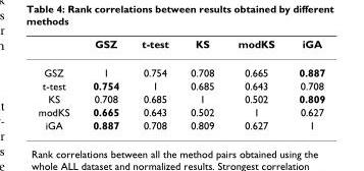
<table><thead><tr><td></td><td>GSZ</td><td>t-test</td><td>KS</td><td>modKS</td><td>iGA</td></tr></thead><tbody><tr><td>GSZ</td><td>1</td><td>0.754</td><td>0.708</td><td>0.665</td><td>0.887</td></tr><tr><td>t-test</td><td>0.754</td><td>1</td><td>0.685</td><td>0.643</td><td>0.708</td></tr><tr><td>KS</td><td>0.708</td><td>0.685</td><td>1</td><td>0.502</td><td>0.809</td></tr><tr><td>modKS</td><td>0.665</td><td>0.643</td><td>0.502</td><td>1</td><td>0.627</td></tr><tr><td>iGA</td><td>0.887</td><td>0.708</td><td>0.809</td><td>0.627</td><td>1</td></tr></tbody></table>